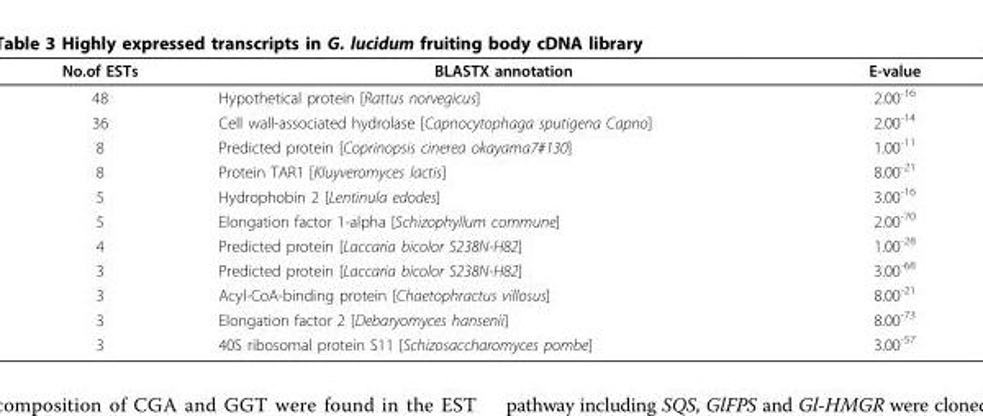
<table><thead><tr><td>No.of ESTs</td><td>BLASTX annotation</td><td>E-value</td></tr></thead><tbody><tr><td>48</td><td>Hypothetical protein [Rattus norvegicus]</td><td>2.00<sup>-16</sup></td></tr><tr><td>36</td><td>Cell wall-associated hydrolase [Capnocytophaga sputigena Capno]</td><td>2.00<sup>-14</sup></td></tr><tr><td>8</td><td>Predicted protein [Coprinopsis cinerea okayama7#130]</td><td>1.00<sup>-11</sup></td></tr><tr><td>8</td><td>Protein TAR1 [Kluyveromyces lactis]</td><td>8.00<sup>-21</sup></td></tr><tr><td>5</td><td>Hydrophobin 2 [Lentinula edodes]</td><td>3.00<sup>-16</sup></td></tr><tr><td>5</td><td>Elongation factor 1-alpha [Schizophyllum commune]</td><td>2.00<sup>-70</sup></td></tr><tr><td>4</td><td>Predicted protein [Laccaria bicolor S238N-H82]</td><td>1.00<sup>-28</sup></td></tr><tr><td>3</td><td>Predicted protein [Laccaria bicolor S238N-H82]</td><td>3.00<sup>-68</sup></td></tr><tr><td>3</td><td>Acyl-CoA-binding protein [Chaetophractus villosus]</td><td>8.00<sup>-21</sup></td></tr><tr><td>3</td><td>Elongation factor 2 [Debaryomyces hansenii]</td><td>8.00<sup>-73</sup></td></tr><tr><td>3</td><td>40S ribosomal protein S11 [Schizosaccharomyces pombe]</td><td>3.00<sup>-57</sup></td></tr></tbody></table>